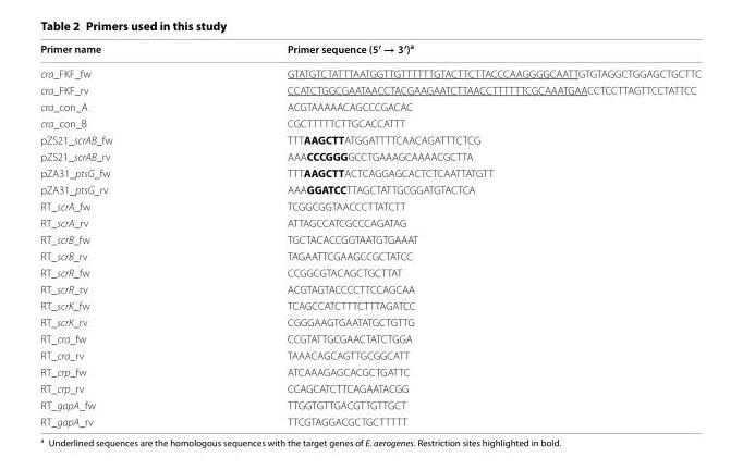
<table><thead><tr><td>Primer name</td><td>Primer sequence (5′ → 3′)<sup>a</sup></td></tr></thead><tbody><tr><td>cra_FKF_fw</td><td>GTATGTCTATTTAATGGTTGTTTTTTGTACTTCTTACCCAAGGGGCAATTGTGTAGGCTGGAGCTGCTTC</td></tr><tr><td>cra_FKF_rv</td><td>CCATCTGGCGAATAACCTACGAAGAATCTTAACCTTTTTTCGCAAATGAACCTCCTTAGTTCCTATTCC</td></tr><tr><td>cra_con_A</td><td>ACGTAAAAACAGCCCGACAC</td></tr><tr><td>cra_con_B</td><td>CGCTTTTTCTTGCACCATTT</td></tr><tr><td>pZS21_scrAB_fw</td><td>TTTAAGCTTATGGATTTTCAACAGATTTCTCG</td></tr><tr><td>pZS21_scrAB_rv</td><td>AAACCCGGGGCCTGAAAGCAAAACGCTTA</td></tr><tr><td>pZA31_ptsG_fw</td><td>TTTAAGCTTACTCAGGAGCACTCTCAATTATGTT</td></tr><tr><td>pZA31_ptsG_rv</td><td>AAAGGATCCTTAGCTATTGCGGATGTACTCA</td></tr><tr><td>RT_scrA_fw</td><td>TCGGCGGTAACCCTTATCTT</td></tr><tr><td>RT_scrA_rv</td><td>ATTAGCCATCGCCCAGATAG</td></tr><tr><td>RT_scrB_fw</td><td>TGCTACACCGGTAATGTGAAAT</td></tr><tr><td>RT_scrB_rv</td><td>TAGAATTCGAAGCCGCTATCC</td></tr><tr><td>RT_scrR_fw</td><td>CCGGCGTACAGCTGCTTAT</td></tr><tr><td>RT_scrR_rv</td><td>ACGTAGTACCCCTTCCAGCAA</td></tr><tr><td>RT_scrK_fw</td><td>TCAGCCATCTTTCTTTAGATCC</td></tr><tr><td>RT_scrK_rv</td><td>CGGGAAGTGAATATGCTGTTG</td></tr><tr><td>RT_cra_fw</td><td>CCGTATTGCGAACTATCTGGA</td></tr><tr><td>RT_cra_rv</td><td>TAAACAGCAGTTGCGGCATT</td></tr><tr><td>RT_crp_fw</td><td>ATCAAAGAGCACGCTGATTC</td></tr><tr><td>RT_crp_rv</td><td>CCAGCATCTTCAGAATACGG</td></tr><tr><td>RT_gapA_fw</td><td>TTGGTGTTGACGTTGTTGCT</td></tr><tr><td>RT_gapA_rv</td><td>TTCGTAGGACGCTGCTTTTT</td></tr></tbody></table>